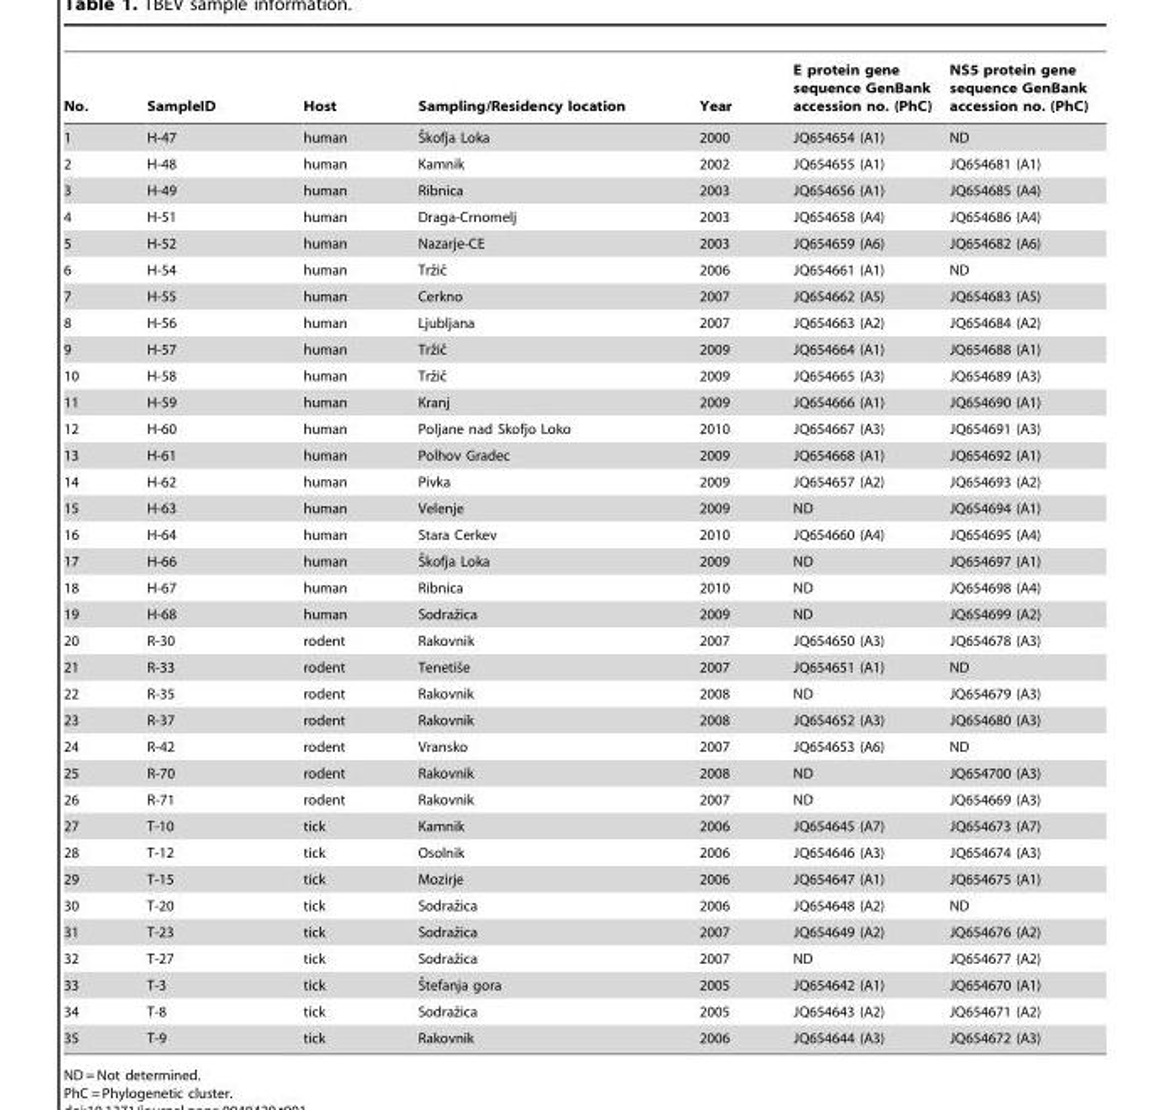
<table><thead><tr><td>No.</td><td>SampleID</td><td>Host</td><td>Sampling/Residency location</td><td>Year</td><td>E protein gene sequence GenBank accession no. (PhC)</td><td>NS5 protein gene sequence GenBank accession no. (PhC)</td></tr></thead><tbody><tr><td>1</td><td>H-47</td><td>human</td><td>Sˇkofja Loka</td><td>2000</td><td>JQ654654 (A1)</td><td>ND</td></tr><tr><td>2</td><td>H-48</td><td>human</td><td>Kamnik</td><td>2002</td><td>JQ654655 (A1)</td><td>JQ654681 (A1)</td></tr><tr><td>3</td><td>H-49</td><td>human</td><td>Ribnica</td><td>2003</td><td>JQ654656 (A1)</td><td>JQ654685 (A4)</td></tr><tr><td>4</td><td>H-51</td><td>human</td><td>Draga-Crnomelj</td><td>2003</td><td>JQ654658 (A4)</td><td>JQ654686 (A4)</td></tr><tr><td>5</td><td>H-52</td><td>human</td><td>Nazarje-CE</td><td>2003</td><td>JQ654659 (A6)</td><td>JQ654682 (A6)</td></tr><tr><td>6</td><td>H-54</td><td>human</td><td>Trzˇicˇ</td><td>2006</td><td>JQ654661 (A1)</td><td>ND</td></tr><tr><td>7</td><td>H-55</td><td>human</td><td>Cerkno</td><td>2007</td><td>JQ654662 (A5)</td><td>JQ654683 (A5)</td></tr><tr><td>8</td><td>H-56</td><td>human</td><td>Ljubljana</td><td>2007</td><td>JQ654663 (A2)</td><td>JQ654684 (A2)</td></tr><tr><td>9</td><td>H-57</td><td>human</td><td>Trzˇicˇ</td><td>2009</td><td>JQ654664 (A1)</td><td>JQ654688 (A1)</td></tr><tr><td>10</td><td>H-58</td><td>human</td><td>Trzˇicˇ</td><td>2009</td><td>JQ654665 (A3)</td><td>JQ654689 (A3)</td></tr><tr><td>11</td><td>H-59</td><td>human</td><td>Kranj</td><td>2009</td><td>JQ654666 (A1)</td><td>JQ654690 (A1)</td></tr><tr><td>12</td><td>H-60</td><td>human</td><td>Poljane nad Skofjo Loko</td><td>2010</td><td>JQ654667 (A3)</td><td>JQ654691 (A3)</td></tr><tr><td>13</td><td>H-61</td><td>human</td><td>Polhov Gradec</td><td>2009</td><td>JQ654668 (A1)</td><td>JQ654692 (A1)</td></tr><tr><td>14</td><td>H-62</td><td>human</td><td>Pivka</td><td>2009</td><td>JQ654657 (A2)</td><td>JQ654693 (A2)</td></tr><tr><td>15</td><td>H-63</td><td>human</td><td>Velenje</td><td>2009</td><td>ND</td><td>JQ654694 (A1)</td></tr><tr><td>16</td><td>H-64</td><td>human</td><td>Stara Cerkev</td><td>2010</td><td>JQ654660 (A4)</td><td>JQ654695 (A4)</td></tr><tr><td>17</td><td>H-66</td><td>human</td><td>Sˇkofja Loka</td><td>2009</td><td>ND</td><td>JQ654697 (A1)</td></tr><tr><td>18</td><td>H-67</td><td>human</td><td>Ribnica</td><td>2010</td><td>ND</td><td>JQ654698 (A4)</td></tr><tr><td>19</td><td>H-68</td><td>human</td><td>Sodrazˇica</td><td>2009</td><td>ND</td><td>JQ654699 (A2)</td></tr><tr><td>20</td><td>R-30</td><td>rodent</td><td>Rakovnik</td><td>2007</td><td>JQ654650 (A3)</td><td>JQ654678 (A3)</td></tr><tr><td>21</td><td>R-33</td><td>rodent</td><td>Tenetisˇe</td><td>2007</td><td>JQ654651 (A1)</td><td>ND</td></tr><tr><td>22</td><td>R-35</td><td>rodent</td><td>Rakovnik</td><td>2008</td><td>ND</td><td>JQ654679 (A3)</td></tr><tr><td>23</td><td>R-37</td><td>rodent</td><td>Rakovnik</td><td>2008</td><td>JQ654652 (A3)</td><td>JQ654680 (A3)</td></tr><tr><td>24</td><td>R-42</td><td>rodent</td><td>Vransko</td><td>2007</td><td>JQ654653 (A6)</td><td>ND</td></tr><tr><td>25</td><td>R-70</td><td>rodent</td><td>Rakovnik</td><td>2008</td><td>ND</td><td>JQ654700 (A3)</td></tr><tr><td>26</td><td>R-71</td><td>rodent</td><td>Rakovnik</td><td>2007</td><td>ND</td><td>JQ654669 (A3)</td></tr><tr><td>27</td><td>T-10</td><td>tick</td><td>Kamnik</td><td>2006</td><td>JQ654645 (A7)</td><td>JQ654673 (A7)</td></tr><tr><td>28</td><td>T-12</td><td>tick</td><td>Osolnik</td><td>2006</td><td>JQ654646 (A3)</td><td>JQ654674 (A3)</td></tr><tr><td>29</td><td>T-15</td><td>tick</td><td>Mozirje</td><td>2006</td><td>JQ654647 (A1)</td><td>JQ654675 (A1)</td></tr><tr><td>30</td><td>T-20</td><td>tick</td><td>Sodrazˇica</td><td>2006</td><td>JQ654648 (A2)</td><td>ND</td></tr><tr><td>31</td><td>T-23</td><td>tick</td><td>Sodrazˇica</td><td>2007</td><td>JQ654649 (A2)</td><td>JQ654676 (A2)</td></tr><tr><td>32</td><td>T-27</td><td>tick</td><td>Sodrazˇica</td><td>2007</td><td>ND</td><td>JQ654677 (A2)</td></tr><tr><td>33</td><td>T-3</td><td>tick</td><td>Sˇtefanja gora</td><td>2005</td><td>JQ654642 (A1)</td><td>JQ654670 (A1)</td></tr><tr><td>34</td><td>T-8</td><td>tick</td><td>Sodrazˇica</td><td>2005</td><td>JQ654643 (A2)</td><td>JQ654671 (A2)</td></tr><tr><td>35</td><td>T-9</td><td>tick</td><td>Rakovnik</td><td>2006</td><td>JQ654644 (A3)</td><td>JQ654672 (A3)</td></tr></tbody></table>